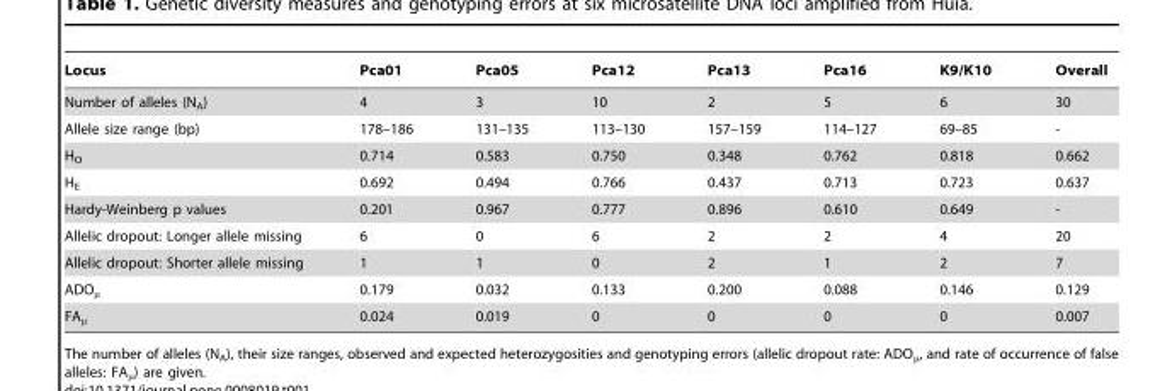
<table><thead><tr><td>Locus</td><td>Pca01</td><td>Pca05</td><td>Pca12</td><td>Pca13</td><td>Pca16</td><td>K9/K10</td><td>Overall</td></tr></thead><tbody><tr><td>Number of alleles (N<sub>A</sub>)</td><td>4</td><td>3</td><td>10</td><td>2</td><td>5</td><td>6</td><td>30</td></tr><tr><td>Allele size range (bp)</td><td>178–186</td><td>131–135</td><td>113–130</td><td>157–159</td><td>114–127</td><td>69–85</td><td>-</td></tr><tr><td>H<sub>O</sub></td><td>0.714</td><td>0.583</td><td>0.750</td><td>0.348</td><td>0.762</td><td>0.818</td><td>0.662</td></tr><tr><td>H<sub>E</sub></td><td>0.692</td><td>0.494</td><td>0.766</td><td>0.437</td><td>0.713</td><td>0.723</td><td>0.637</td></tr><tr><td>Hardy-Weinberg p values</td><td>0.201</td><td>0.967</td><td>0.777</td><td>0.896</td><td>0.610</td><td>0.649</td><td>-</td></tr><tr><td>Allelic dropout: Longer allele missing</td><td>6</td><td>0</td><td>6</td><td>2</td><td>2</td><td>4</td><td>20</td></tr><tr><td>Allelic dropout: Shorter allele missing</td><td>1</td><td>1</td><td>0</td><td>2</td><td>1</td><td>2</td><td>7</td></tr><tr><td>ADO<sub>μ</sub></td><td>0.179</td><td>0.032</td><td>0.133</td><td>0.200</td><td>0.088</td><td>0.146</td><td>0.129</td></tr><tr><td>FA<sub>μ</sub></td><td>0.024</td><td>0.019</td><td>0</td><td>0</td><td>0</td><td>0</td><td>0.007</td></tr></tbody></table>